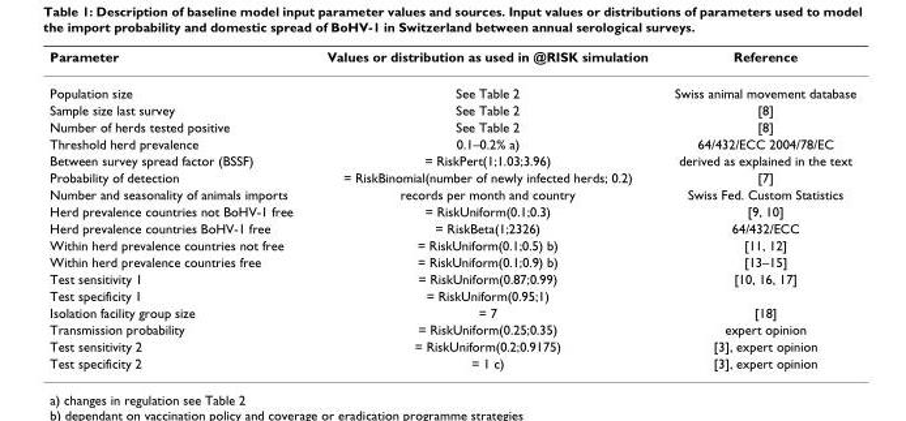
<table><thead><tr><td>Parameter</td><td>Values or distribution as used in @RISK simulation</td><td>Reference</td></tr></thead><tbody><tr><td>Population size</td><td>See Table 2</td><td>Swiss animal movement database</td></tr><tr><td>Sample size last survey</td><td>See Table 2</td><td>[8]</td></tr><tr><td>Number of herds tested positive</td><td>See Table 2</td><td>[8]</td></tr><tr><td>Threshold herd prevalence</td><td>0.1–0.2% a)</td><td>64/432/ECC 2004/78/EC</td></tr><tr><td>Between survey spread factor (BSSF)</td><td>= RiskPert(1;1.03;3.96)</td><td>derived as explained in the text</td></tr><tr><td>Probability of detection</td><td>= RiskBinomial(number of newly infected herds; 0.2)</td><td>[7]</td></tr><tr><td>Number and seasonality of animals imports</td><td>records per month and country</td><td>Swiss Fed. Custom Statistics</td></tr><tr><td>Herd prevalence countries not BoHV-1 free</td><td>= RiskUniform(0.1;0.3)</td><td>[9, 10]</td></tr><tr><td>Herd prevalence countries BoHV-1 free</td><td>= RiskBeta(1;2326)</td><td>64/432/ECC</td></tr><tr><td>Within herd prevalence countries not free</td><td>= RiskUniform(0.1;0.5) b)</td><td>[11, 12]</td></tr><tr><td>Within herd prevalence countries free</td><td>= RiskUniform(0.1;0.9) b)</td><td>[13–15]</td></tr><tr><td>Test sensitivity 1</td><td>= RiskUniform(0.87;0.99)</td><td>[10, 16, 17]</td></tr><tr><td>Test specificity 1</td><td>= RiskUniform(0.95;1)</td><td></td></tr><tr><td>Isolation facility group size</td><td>= 7</td><td>[18]</td></tr><tr><td>Transmission probability</td><td>= RiskUniform(0.25;0.35)</td><td>expert opinion</td></tr><tr><td>Test sensitivity 2</td><td>= RiskUniform(0.2;0.9175)</td><td>[3], expert opinion</td></tr><tr><td>Test specificity 2</td><td>= 1 c)</td><td>[3], expert opinion</td></tr></tbody></table>